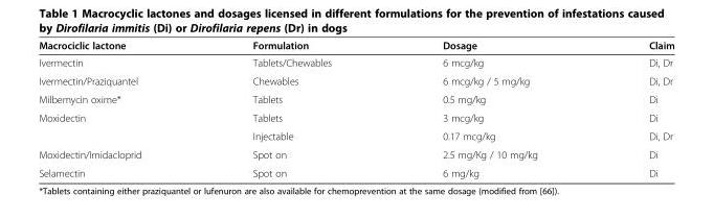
<table><thead><tr><td>Macrociclic lactone</td><td>Formulation</td><td>Dosage</td><td>Claim</td></tr></thead><tbody><tr><td>Ivermectin</td><td>Tablets/Chewables</td><td>6 mcg/kg</td><td>Di, Dr</td></tr><tr><td>Ivermectin/Praziquantel</td><td>Chewables</td><td>6 mcg/kg / 5 mg/kg</td><td>Di, Dr</td></tr><tr><td>Milbemycin oxime*</td><td>Tablets</td><td>0.5 mg/kg</td><td>Di</td></tr><tr><td rowspan="2">Moxidectin</td><td>Tablets</td><td>3 mcg/kg</td><td>Di</td></tr><tr><td>Injectable</td><td>0.17 mcg/kg</td><td>Di, Dr</td></tr><tr><td>Moxidectin/Imidacloprid</td><td>Spot on</td><td>2.5 mg/Kg / 10 mg/kg</td><td>Di</td></tr><tr><td>Selamectin</td><td>Spot on</td><td>6 mg/kg</td><td>Di</td></tr></tbody></table>